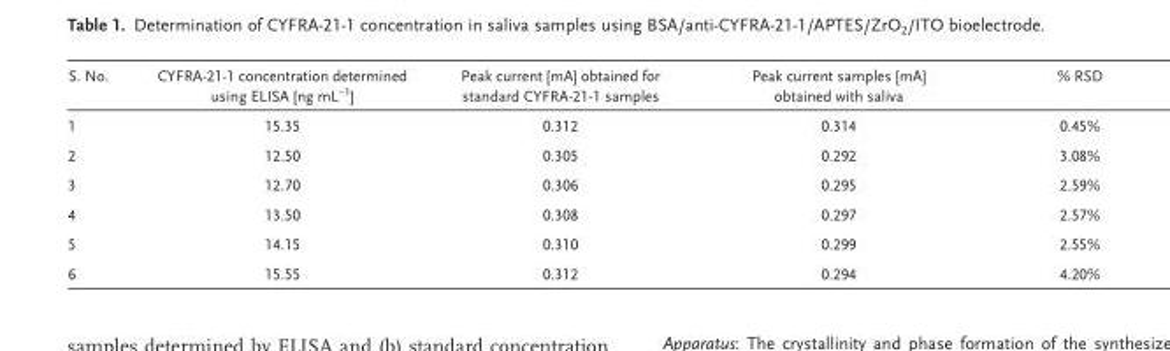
<table><thead><tr><td>S. No.</td><td>CYFRA-21-1 concentration determined using ELISA [ng mL <sup>−1</sup> ]</td><td>Peak current [mA] obtained for standard CYFRA-21-1 samples</td><td>Peak current samples [mA] obtained with saliva</td><td>% RSD</td></tr></thead><tbody><tr><td>1</td><td>15.35</td><td>0.312</td><td>0.314</td><td>0.45%</td></tr><tr><td>2</td><td>12.50</td><td>0.305</td><td>0.292</td><td>3.08%</td></tr><tr><td>3</td><td>12.70</td><td>0.306</td><td>0.295</td><td>2.59%</td></tr><tr><td>4</td><td>13.50</td><td>0.308</td><td>0.297</td><td>2.57%</td></tr><tr><td>5</td><td>14.15</td><td>0.310</td><td>0.299</td><td>2.55%</td></tr><tr><td>6</td><td>15.55</td><td>0.312</td><td>0.294</td><td>4.20%</td></tr></tbody></table>